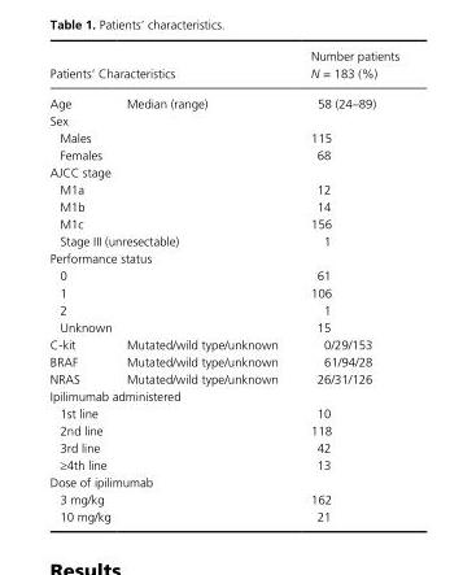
<table><thead><tr><td colspan="2">Patients’ Characteristics</td><td rowspan="2">Number patients N = 183 (%) 58 (24–89)</td></tr><tr><td>Age</td><td>Median (range)</td></tr></thead><tbody><tr><td colspan="3">Sex</td></tr><tr><td colspan="2">Males</td><td>115</td></tr><tr><td colspan="2">Females</td><td>68</td></tr><tr><td colspan="3">AJCC stage</td></tr><tr><td colspan="2">M1a</td><td>12</td></tr><tr><td colspan="2">M1b</td><td>14</td></tr><tr><td colspan="2">M1c</td><td>156</td></tr><tr><td colspan="2">Stage III (unresectable)</td><td>1</td></tr><tr><td colspan="3">Performance status</td></tr><tr><td colspan="2">0</td><td>61</td></tr><tr><td colspan="2">1</td><td>106</td></tr><tr><td colspan="2">2</td><td>1</td></tr><tr><td colspan="2">Unknown</td><td>15</td></tr><tr><td>C- kit</td><td>Mutated/wild type/unknown</td><td>0/29/153</td></tr><tr><td>BRAF</td><td>Mutated/wild type/unknown</td><td>61/94/28</td></tr><tr><td>NRAS</td><td>Mutated/wild type/unknown</td><td>26/31/126</td></tr><tr><td colspan="3">Ipilimumab administered</td></tr><tr><td colspan="2">1st line</td><td>10</td></tr><tr><td colspan="2">2nd line</td><td>118</td></tr><tr><td colspan="2">3rd line</td><td>42</td></tr><tr><td colspan="2">≥4th line</td><td>13</td></tr><tr><td colspan="3">Dose of ipilimumab</td></tr><tr><td colspan="2">3 mg/kg</td><td>162</td></tr><tr><td colspan="2">10 mg/kg</td><td>21</td></tr></tbody></table>